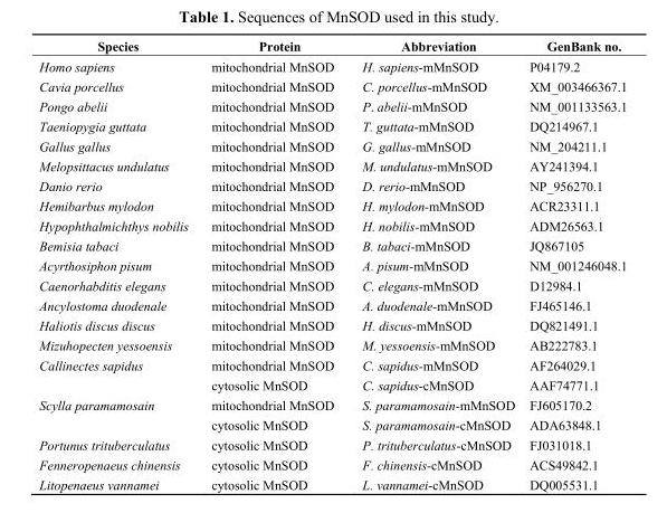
<table><thead><tr><td>Species</td><td>Protein</td><td>Abbreviation</td><td>GenBank no.</td></tr></thead><tbody><tr><td>Homo sapiens</td><td>mitochondrial MnSOD</td><td>H. sapiens-mMnSOD</td><td>P04179.2</td></tr><tr><td>Cavia porcellus</td><td>mitochondrial MnSOD</td><td>C. porcellus-mMnSOD</td><td>XM_003466367.1</td></tr><tr><td>Pongo abelii</td><td>mitochondrial MnSOD</td><td>P. abelii-mMnSOD</td><td>NM_001133563.1</td></tr><tr><td>Taeniopygia guttata</td><td>mitochondrial MnSOD</td><td>T. guttata-mMnSOD</td><td>DQ214967.1</td></tr><tr><td>Gallus gallus</td><td>mitochondrial MnSOD</td><td>G. gallus-mMnSOD</td><td>NM_204211.1</td></tr><tr><td>Melopsittacus undulatus</td><td>mitochondrial MnSOD</td><td>M. undulatus-mMnSOD</td><td>AY241394.1</td></tr><tr><td>Danio rerio</td><td>mitochondrial MnSOD</td><td>D. rerio-mMnSOD</td><td>NP_956270.1</td></tr><tr><td>Hemibarbus mylodon</td><td>mitochondrial MnSOD</td><td>H. mylodon-mMnSOD</td><td>ACR23311.1</td></tr><tr><td>Hypophthalmichthys nobilis</td><td>mitochondrial MnSOD</td><td>H. nobilis-mMnSOD</td><td>ADM26563.1</td></tr><tr><td>Bemisia tabaci</td><td>mitochondrial MnSOD</td><td>B. tabaci-mMnSOD</td><td>JQ867105</td></tr><tr><td>Acyrthosiphon pisum</td><td>mitochondrial MnSOD</td><td>A. pisum-mMnSOD</td><td>NM_001246048.1</td></tr><tr><td>Caenorhabditis elegans</td><td>mitochondrial MnSOD</td><td>C. elegans-mMnSOD</td><td>D12984.1</td></tr><tr><td>Ancylostoma duodenale</td><td>mitochondrial MnSOD</td><td>A. duodenale-mMnSOD</td><td>FJ465146.1</td></tr><tr><td>Haliotis discus discus</td><td>mitochondrial MnSOD</td><td>H. discus-mMnSOD</td><td>DQ821491.1</td></tr><tr><td>Mizuhopecten yessoensis</td><td>mitochondrial MnSOD</td><td>M. yessoensis-mMnSOD</td><td>AB222783.1</td></tr><tr><td rowspan="2">Callinectes sapidus</td><td>mitochondrial MnSOD</td><td>C. sapidus-mMnSOD</td><td>AF264029.1</td></tr><tr><td>cytosolic MnSOD</td><td>C. sapidus-cMnSOD</td><td>AAF74771.1</td></tr><tr><td rowspan="2">Scylla paramamosain</td><td>mitochondrial MnSOD</td><td>S. paramamosain-mMnSOD</td><td>FJ605170.2</td></tr><tr><td>cytosolic MnSOD</td><td>S. paramamosain-cMnSOD</td><td>ADA63848.1</td></tr><tr><td>Portunus trituberculatus</td><td>cytosolic MnSOD</td><td>P. trituberculatus-cMnSOD</td><td>FJ031018.1</td></tr><tr><td>Fenneropenaeus chinensis</td><td>cytosolic MnSOD</td><td>F. chinensis-cMnSOD</td><td>ACS49842.1</td></tr><tr><td>Litopenaeus vannamei</td><td>cytosolic MnSOD</td><td>L. vannamei-cMnSOD</td><td>DQ005531.1</td></tr></tbody></table>